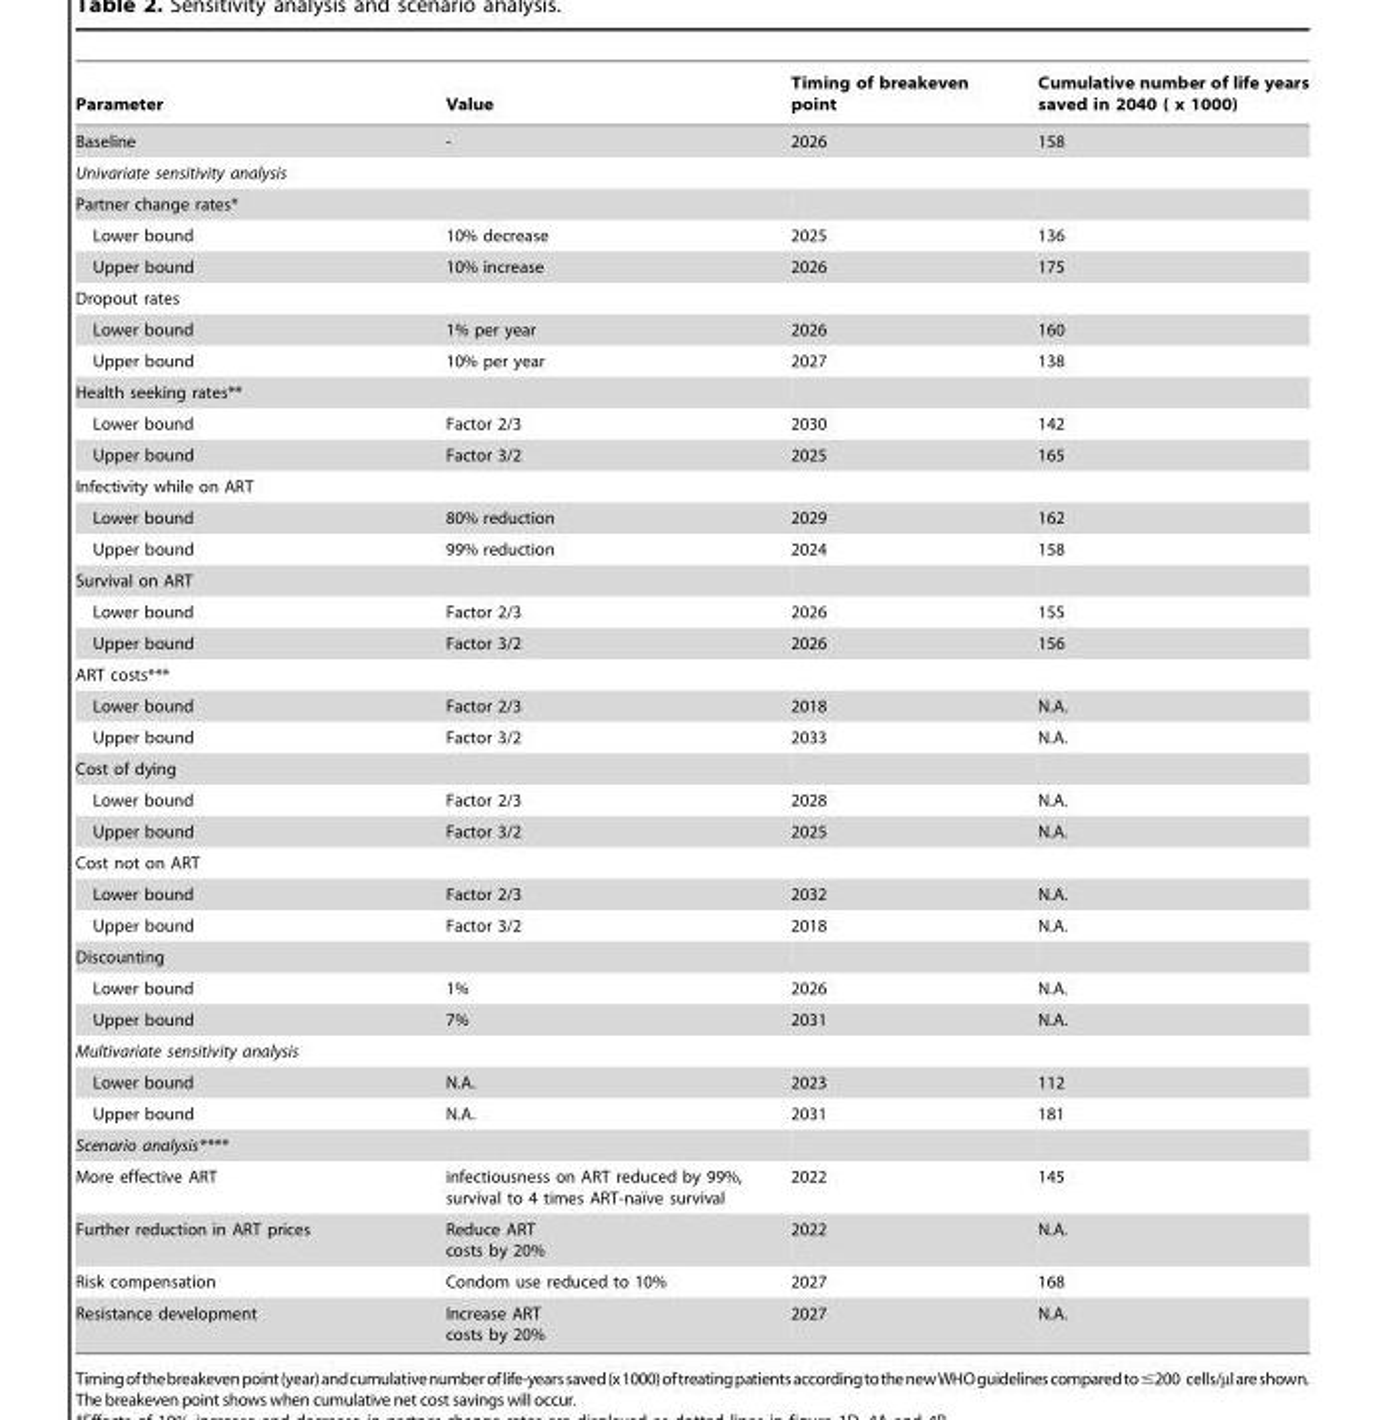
<table><thead><tr><td>Parameter</td><td>Value</td><td>Timing of breakeven point</td><td>Cumulative number of life years saved in 2040 ( x 1000)</td></tr></thead><tbody><tr><td>Baseline</td><td>-</td><td>2026</td><td>158</td></tr><tr><td colspan="4">Univariate sensitivity analysis</td></tr><tr><td colspan="4">Partner change rates*</td></tr><tr><td>Lower bound</td><td>10% decrease</td><td>2025</td><td>136</td></tr><tr><td>Upper bound</td><td>10% increase</td><td>2026</td><td>175</td></tr><tr><td colspan="4">Dropout rates</td></tr><tr><td>Lower bound</td><td>1% per year</td><td>2026</td><td>160</td></tr><tr><td>Upper bound</td><td>10% per year</td><td>2027</td><td>138</td></tr><tr><td colspan="4">Health seeking rates**</td></tr><tr><td>Lower bound</td><td>Factor 2/3</td><td>2030</td><td>142</td></tr><tr><td>Upper bound</td><td>Factor 3/2</td><td>2025</td><td>165</td></tr><tr><td colspan="4">Infectivity while on ART</td></tr><tr><td>Lower bound</td><td>80% reduction</td><td>2029</td><td>162</td></tr><tr><td>Upper bound</td><td>99% reduction</td><td>2024</td><td>158</td></tr><tr><td colspan="4">Survival on ART</td></tr><tr><td>Lower bound</td><td>Factor 2/3</td><td>2026</td><td>155</td></tr><tr><td>Upper bound</td><td>Factor 3/2</td><td>2026</td><td>156</td></tr><tr><td colspan="4">ART costs***</td></tr><tr><td>Lower bound</td><td>Factor 2/3</td><td>2018</td><td>N.A.</td></tr><tr><td>Upper bound</td><td>Factor 3/2</td><td>2033</td><td>N.A.</td></tr><tr><td colspan="4">Cost of dying</td></tr><tr><td>Lower bound</td><td>Factor 2/3</td><td>2028</td><td>N.A.</td></tr><tr><td>Upper bound</td><td>Factor 3/2</td><td>2025</td><td>N.A.</td></tr><tr><td colspan="4">Cost not on ART</td></tr><tr><td>Lower bound</td><td>Factor 2/3</td><td>2032</td><td>N.A.</td></tr><tr><td>Upper bound</td><td>Factor 3/2</td><td>2018</td><td>N.A.</td></tr><tr><td colspan="4">Discounting</td></tr><tr><td>Lower bound</td><td>1%</td><td>2026</td><td>N.A.</td></tr><tr><td>Upper bound</td><td>7%</td><td>2031</td><td>N.A.</td></tr><tr><td colspan="4">Multivariate sensitivity analysis</td></tr><tr><td>Lower bound</td><td>N.A.</td><td>2023</td><td>112</td></tr><tr><td>Upper bound</td><td>N.A.</td><td>2031</td><td>181</td></tr><tr><td colspan="4">Scenario analysis****</td></tr><tr><td>More effective ART</td><td>infectiousness on ART reduced by 99%, survival to 4 times ART-naı¨ve survival</td><td>2022</td><td>145</td></tr><tr><td>Further reduction in ART prices</td><td>Reduce ART costs by 20%</td><td>2022</td><td>N.A.</td></tr><tr><td>Risk compensation</td><td>Condom use reduced to 10%</td><td>2027</td><td>168</td></tr><tr><td>Resistance development</td><td>Increase ART costs by 20%</td><td>2027</td><td>N.A.</td></tr></tbody></table>